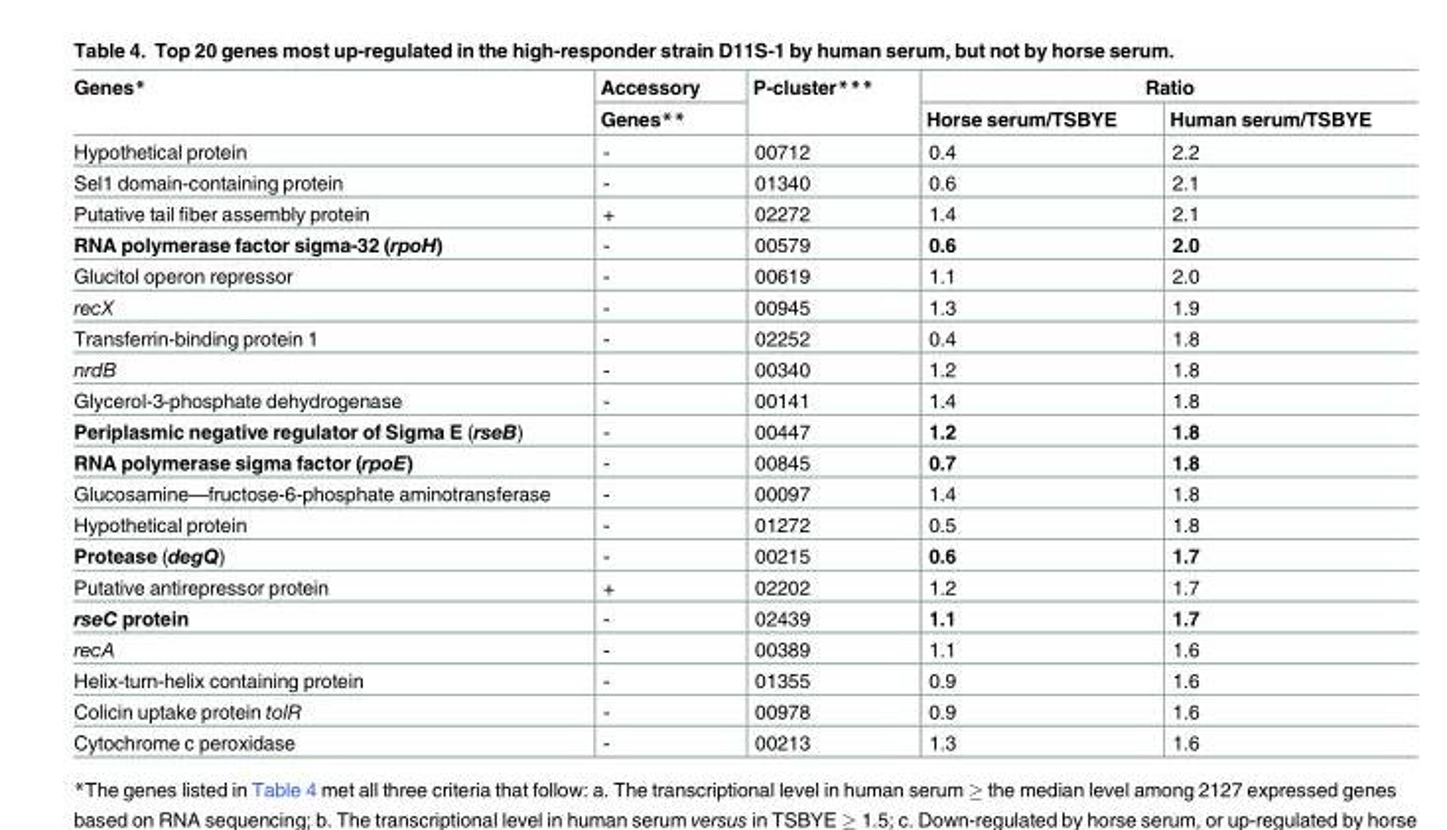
<table><thead><tr><td rowspan="2">Genes*</td><td rowspan="2">Accessory Genes**</td><td rowspan="2">P-cluster***</td><td colspan="2">Ratio</td></tr><tr><td>Horse serum/TSBYE</td><td>Human serum/TSBYE</td></tr></thead><tbody><tr><td>Hypothetical protein</td><td>-</td><td>00712</td><td>0.4</td><td>2.2</td></tr><tr><td>Sel1 domain-containing protein</td><td>-</td><td>01340</td><td>0.6</td><td>2.1</td></tr><tr><td>Putative tail fiber assembly protein</td><td>+</td><td>02272</td><td>1.4</td><td>2.1</td></tr><tr><td>RNA polymerase factor sigma-32 (rpoH)</td><td>-</td><td>00579</td><td>0.6</td><td>2.0</td></tr><tr><td>Glucitol operon repressor</td><td>-</td><td>00619</td><td>1.1</td><td>2.0</td></tr><tr><td>recX</td><td>-</td><td>00945</td><td>1.3</td><td>1.9</td></tr><tr><td>Transferrin-binding protein 1</td><td>-</td><td>02252</td><td>0.4</td><td>1.8</td></tr><tr><td>nrdB</td><td>-</td><td>00340</td><td>1.2</td><td>1.8</td></tr><tr><td>Glycerol-3-phosphate dehydrogenase</td><td>-</td><td>00141</td><td>1.4</td><td>1.8</td></tr><tr><td>Periplasmic negative regulator of Sigma E (rseB)</td><td>-</td><td>00447</td><td>1.2</td><td>1.8</td></tr><tr><td>RNA polymerase sigma factor (rpoE)</td><td>-</td><td>00845</td><td>0.7</td><td>1.8</td></tr><tr><td>Glucosamine—fructose-6-phosphate aminotransferase</td><td>-</td><td>00097</td><td>1.4</td><td>1.8</td></tr><tr><td>Hypothetical protein</td><td>-</td><td>01272</td><td>0.5</td><td>1.8</td></tr><tr><td>Protease (degQ)</td><td>-</td><td>00215</td><td>0.6</td><td>1.7</td></tr><tr><td>Putative antirepressor protein</td><td>+</td><td>02202</td><td>1.2</td><td>1.7</td></tr><tr><td>rseC protein</td><td>-</td><td>02439</td><td>1.1</td><td>1.7</td></tr><tr><td>recA</td><td>-</td><td>00389</td><td>1.1</td><td>1.6</td></tr><tr><td>Helix-turn-helix containing protein</td><td>-</td><td>01355</td><td>0.9</td><td>1.6</td></tr><tr><td>Colicin uptake protein tolR</td><td>-</td><td>00978</td><td>0.9</td><td>1.6</td></tr><tr><td>Cytochrome c peroxidase</td><td>-</td><td>00213</td><td>1.3</td><td>1.6</td></tr></tbody></table>